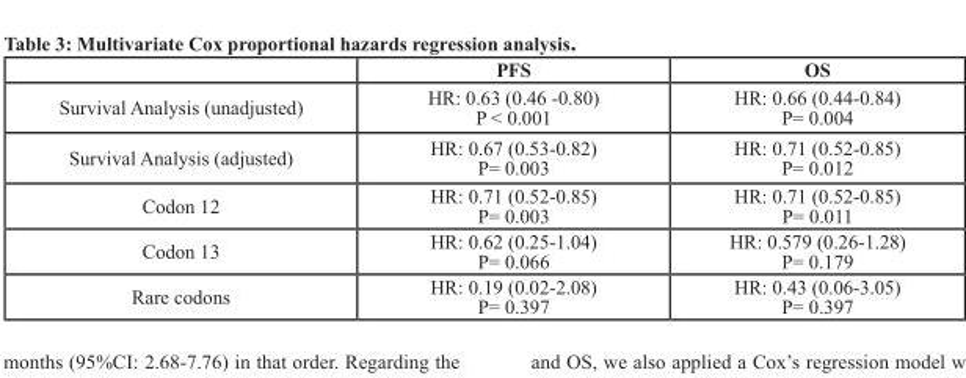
<table><thead><tr><td></td><td>PFS</td><td>OS</td></tr></thead><tbody><tr><td>Survival Analysis (unadjusted)</td><td>HR: 0.63 (0.46 -0.80) P &lt; 0.001</td><td>HR: 0.66 (0.44-0.84) P= 0.004</td></tr><tr><td>Survival Analysis (adjusted)</td><td>HR: 0.67 (0.53-0.82) P= 0.003</td><td>HR: 0.71 (0.52-0.85) P= 0.012</td></tr><tr><td>Codon 12</td><td>HR: 0.71 (0.52-0.85) P= 0.003</td><td>HR: 0.71 (0.52-0.85) P= 0.011</td></tr><tr><td>Codon 13</td><td>HR: 0.62 (0.25-1.04) P= 0.066</td><td>HR: 0.579 (0.26-1.28) P= 0.179</td></tr><tr><td>Rare codons</td><td>HR: 0.19 (0.02-2.08) P= 0.397</td><td>HR: 0.43 (0.06-3.05) P= 0.397</td></tr></tbody></table>